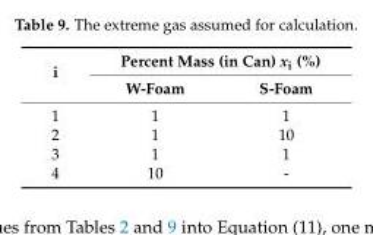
<table><thead><tr><td rowspan="2">i</td><td colspan="2">Percent Mass (in Can) x<sub>i</sub> (%)</td></tr><tr><td>W-Foam</td><td>S-Foam</td></tr></thead><tbody><tr><td>1</td><td>1</td><td>1</td></tr><tr><td>2</td><td>1</td><td>10</td></tr><tr><td>3</td><td>1</td><td>1</td></tr><tr><td>4</td><td>10</td><td>-</td></tr></tbody></table>